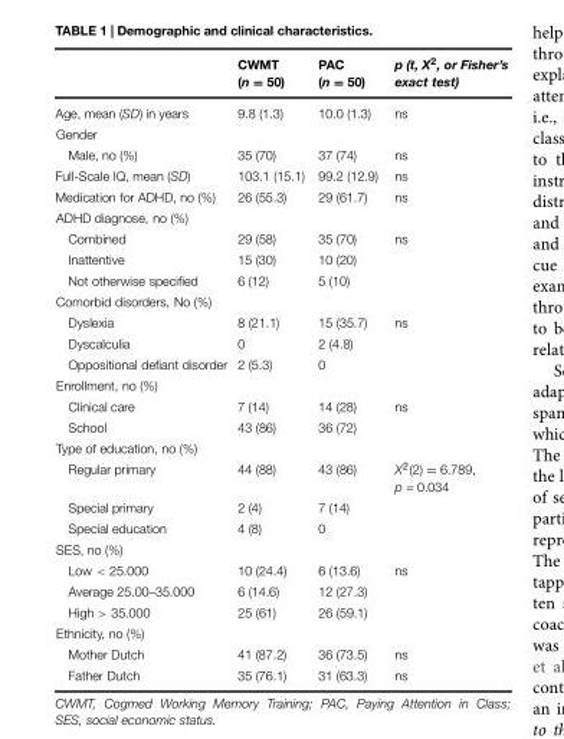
<table><thead><tr><td></td><td>CWMT (n = 50)</td><td>PAC (n = 50)</td><td>p (t, X<sup>2</sup>, or Fisher’s exact test)</td></tr></thead><tbody><tr><td>Age, mean (SD) in years</td><td>9.8 (1.3)</td><td>10.0 (1.3)</td><td>ns</td></tr><tr><td colspan="4">Gender</td></tr><tr><td>Male, no (%)</td><td>35 (70)</td><td>37 (74)</td><td>ns</td></tr><tr><td>Full-Scale IQ, mean (SD)</td><td>103.1 (15.1)</td><td>99.2 (12.9)</td><td>ns</td></tr><tr><td>Medication for ADHD, no (%)</td><td>26 (55.3)</td><td>29 (61.7)</td><td>ns</td></tr><tr><td colspan="4">ADHD diagnose, no (%)</td></tr><tr><td>Combined</td><td>29 (58)</td><td>35 (70)</td><td>ns</td></tr><tr><td>Inattentive</td><td>15 (30)</td><td>10 (20)</td><td></td></tr><tr><td>Not otherwise specified</td><td>6 (12)</td><td>5 (10)</td><td></td></tr><tr><td colspan="4">Comorbid disorders, No (%)</td></tr><tr><td>Dyslexia</td><td>8 (21.1)</td><td>15 (35.7)</td><td>ns</td></tr><tr><td>Dyscalculia</td><td>0</td><td>2 (4.8)</td><td></td></tr><tr><td>Oppositional defiant disorder</td><td>2 (5.3)</td><td>0</td><td></td></tr><tr><td colspan="4">Enrollment, no (%)</td></tr><tr><td>Clinical care</td><td>7 (14)</td><td>14 (28)</td><td>ns</td></tr><tr><td>School</td><td>43 (86)</td><td>36 (72)</td><td></td></tr><tr><td colspan="4">Type of education, no (%)</td></tr><tr><td>Regular primary</td><td>44 (88)</td><td>43 (86)</td><td>X<sup>2</sup>(2) = 6.789, p = 0.034</td></tr><tr><td>Special primary</td><td>2 (4)</td><td>7 (14)</td><td></td></tr><tr><td>Special education</td><td>4 (8)</td><td>0</td><td></td></tr><tr><td colspan="4">SES, no (%)</td></tr><tr><td>Low &lt; 25.000</td><td>10 (24.4)</td><td>6 (13.6)</td><td>ns</td></tr><tr><td>Average 25.00–35.000</td><td>6 (14.6)</td><td>12 (27.3)</td><td></td></tr><tr><td>High &gt; 35.000</td><td>25 (61)</td><td>26 (59.1)</td><td></td></tr><tr><td colspan="4">Ethnicity, no (%)</td></tr><tr><td>Mother Dutch</td><td>41 (87.2)</td><td>36 (73.5)</td><td>ns</td></tr><tr><td>Father Dutch</td><td>35 (76.1)</td><td>31 (63.3)</td><td>ns</td></tr></tbody></table>